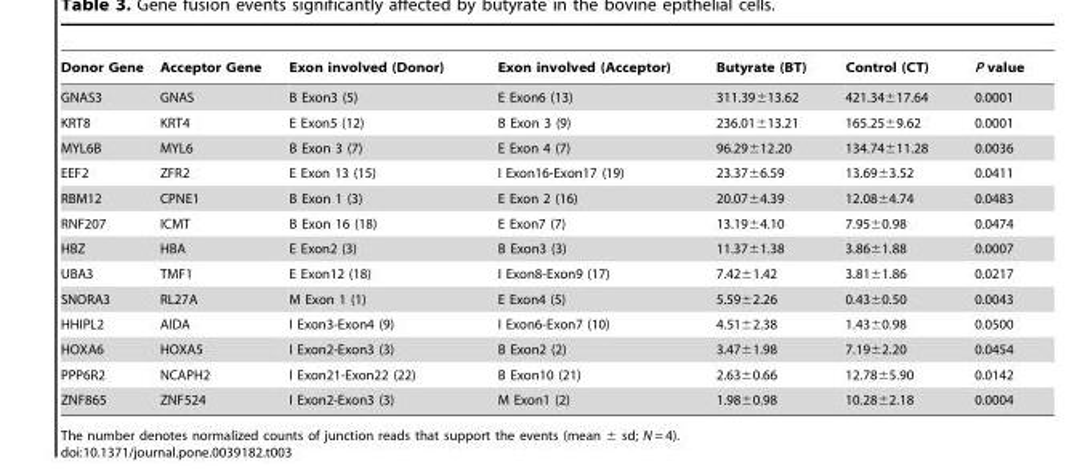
<table><thead><tr><td>Donor Gene</td><td>Acceptor Gene</td><td>Exon involved (Donor)</td><td>Exon involved (Acceptor)</td><td>Butyrate (BT)</td><td>Control (CT)</td><td>P value</td></tr></thead><tbody><tr><td>GNAS3</td><td>GNAS</td><td>B Exon3 (5)</td><td>E Exon6 (13)</td><td>311.39±13.62</td><td>421.34±17.64</td><td>0.0001</td></tr><tr><td>KRT8</td><td>KRT4</td><td>E Exon5 (12)</td><td>B Exon 3 (9)</td><td>236.01±13.21</td><td>165.25±9.62</td><td>0.0001</td></tr><tr><td>MYL6B</td><td>MYL6</td><td>B Exon 3 (7)</td><td>E Exon 4 (7)</td><td>96.29±12.20</td><td>134.74±11.28</td><td>0.0036</td></tr><tr><td>EEF2</td><td>ZFR2</td><td>E Exon 13 (15)</td><td>I Exon16-Exon17 (19)</td><td>23.37±6.59</td><td>13.69±3.52</td><td>0.0411</td></tr><tr><td>RBM12</td><td>CPNE1</td><td>B Exon 1 (3)</td><td>E Exon 2 (16)</td><td>20.07±4.39</td><td>12.08±4.74</td><td>0.0483</td></tr><tr><td>RNF207</td><td>ICMT</td><td>B Exon 16 (18)</td><td>E Exon7 (7)</td><td>13.19±4.10</td><td>7.95±0.98</td><td>0.0474</td></tr><tr><td>HBZ</td><td>HBA</td><td>E Exon2 (3)</td><td>B Exon3 (3)</td><td>11.37±1.38</td><td>3.86±1.88</td><td>0.0007</td></tr><tr><td>UBA3</td><td>TMF1</td><td>E Exon12 (18)</td><td>I Exon8-Exon9 (17)</td><td>7.42±1.42</td><td>3.81±1.86</td><td>0.0217</td></tr><tr><td>SNORA3</td><td>RL27A</td><td>M Exon 1 (1)</td><td>E Exon4 (5)</td><td>5.59±2.26</td><td>0.43±0.50</td><td>0.0043</td></tr><tr><td>HHIPL2</td><td>AIDA</td><td>I Exon3-Exon4 (9)</td><td>I Exon6-Exon7 (10)</td><td>4.51±2.38</td><td>1.43±0.98</td><td>0.0500</td></tr><tr><td>HOXA6</td><td>HOXA5</td><td>I Exon2-Exon3 (3)</td><td>B Exon2 (2)</td><td>3.47±1.98</td><td>7.19±2.20</td><td>0.0454</td></tr><tr><td>PPP6R2</td><td>NCAPH2</td><td>I Exon21-Exon22 (22)</td><td>B Exon10 (21)</td><td>2.63±0.66</td><td>12.78±5.90</td><td>0.0142</td></tr><tr><td>ZNF865</td><td>ZNF524</td><td>I Exon2-Exon3 (3)</td><td>M Exon1 (2)</td><td>1.98±0.98</td><td>10.28±2.18</td><td>0.0004</td></tr></tbody></table>